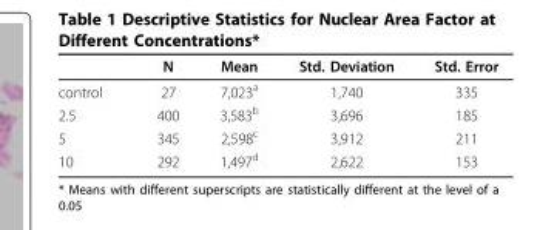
<table><thead><tr><td></td><td>N</td><td>Mean</td><td>Std. Deviation</td><td>Std. Error</td></tr></thead><tbody><tr><td>control</td><td>27</td><td>7,023<sup>a</sup></td><td>1,740</td><td>335</td></tr><tr><td>2.5</td><td>400</td><td>3,583<sup>b</sup></td><td>3,696</td><td>185</td></tr><tr><td>5</td><td>345</td><td>2,598<sup>c</sup></td><td>3,912</td><td>211</td></tr><tr><td>10</td><td>292</td><td>1,497<sup>d</sup></td><td>2,622</td><td>153</td></tr></tbody></table>